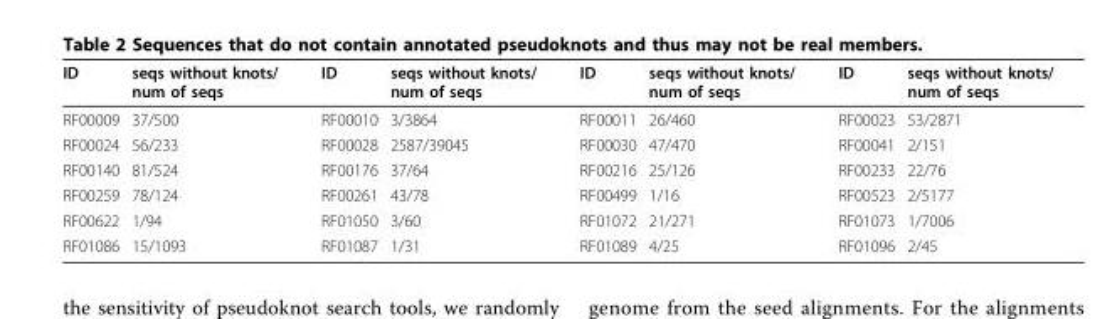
<table><thead><tr><td>ID</td><td>seqs without knots/ num of seqs</td><td>ID</td><td>seqs without knots/ num of seqs</td><td>ID</td><td>seqs without knots/ num of seqs</td><td>ID</td><td>seqs without knots/ num of seqs</td></tr></thead><tbody><tr><td>RF00009</td><td>37/500</td><td>RF00010</td><td>3/3864</td><td>RF00011</td><td>26/460</td><td>RF00023</td><td>53/2871</td></tr><tr><td>RF00024</td><td>56/233</td><td>RF00028</td><td>2587/39045</td><td>RF00030</td><td>47/470</td><td>RF00041</td><td>2/151</td></tr><tr><td>RF00140</td><td>81/524</td><td>RF00176</td><td>37/64</td><td>RF00216</td><td>25/126</td><td>RF00233</td><td>22/76</td></tr><tr><td>RF00259</td><td>78/124</td><td>RF00261</td><td>43/78</td><td>RF00499</td><td>1/16</td><td>RF00523</td><td>2/5177</td></tr><tr><td>RF00622</td><td>1/94</td><td>RF01050</td><td>3/60</td><td>RF01072</td><td>21/271</td><td>RF01073</td><td>1/7006</td></tr><tr><td>RF01086</td><td>15/1093</td><td>RF01087</td><td>1/31</td><td>RF01089</td><td>4/25</td><td>RF01096</td><td>2/45</td></tr></tbody></table>